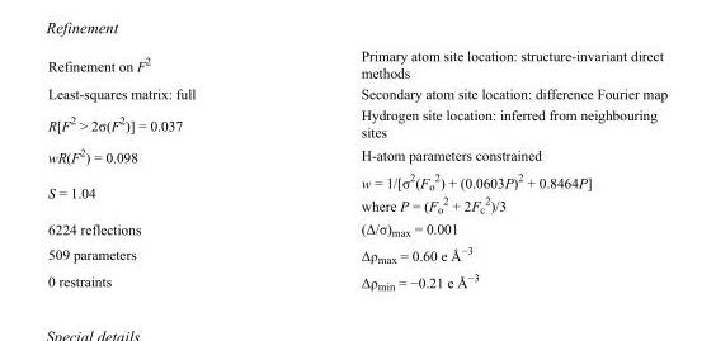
<table><tbody><tr><td>Refinement on F<sup>2</sup></td><td>Primary atom site location: structure-invariant direct methods</td></tr><tr><td>Least-squares matrix: full</td><td>Secondary atom site location: difference Fourier map</td></tr><tr><td>R[F<sup>2</sup> &gt; 2σ(F<sup>2</sup>)] = 0.037</td><td>Hydrogen site location: inferred from neighbouring sites</td></tr><tr><td>wR(F<sup>2</sup>) = 0.098</td><td>H-atom parameters constrained</td></tr><tr><td>S = 1.04</td><td>w = 1/[σ<sup>2</sup>(F<sub>o</sub> <sup>2</sup>) + (0.0603P)<sup>2</sup> + 0.8464P] where P = (F<sub>o</sub> <sup>2</sup> + 2F<sub>c</sub> <sup>2</sup>)/3</td></tr><tr><td>6224 reflections</td><td>(Δ/σ)<sub>max</sub> = 0.001</td></tr><tr><td>509 parameters</td><td>Δρ<sub>max</sub> = 0.60 e Å<sup>−3</sup></td></tr><tr><td>0 restraints</td><td>Δρ<sub>min</sub> = −0.21 e Å<sup>−3</sup></td></tr></tbody></table>